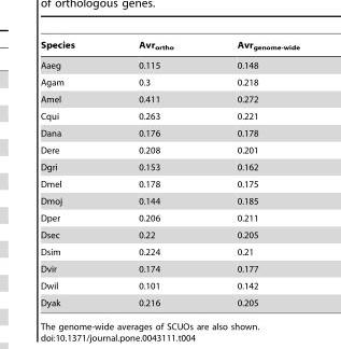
<table><thead><tr><td>Species</td><td>Avr<sub>ortho</sub></td><td>Avr<sub>genome-wide</sub></td></tr></thead><tbody><tr><td>Aaeg</td><td>0.115</td><td>0.148</td></tr><tr><td>Agam</td><td>0.3</td><td>0.218</td></tr><tr><td>Amel</td><td>0.411</td><td>0.272</td></tr><tr><td>Cqui</td><td>0.263</td><td>0.221</td></tr><tr><td>Dana</td><td>0.176</td><td>0.178</td></tr><tr><td>Dere</td><td>0.208</td><td>0.201</td></tr><tr><td>Dgri</td><td>0.153</td><td>0.162</td></tr><tr><td>Dmel</td><td>0.178</td><td>0.175</td></tr><tr><td>Dmoj</td><td>0.144</td><td>0.185</td></tr><tr><td>Dper</td><td>0.206</td><td>0.211</td></tr><tr><td>Dsec</td><td>0.22</td><td>0.205</td></tr><tr><td>Dsim</td><td>0.224</td><td>0.21</td></tr><tr><td>Dvir</td><td>0.174</td><td>0.177</td></tr><tr><td>Dwil</td><td>0.101</td><td>0.142</td></tr><tr><td>Dyak</td><td>0.216</td><td>0.205</td></tr></tbody></table>